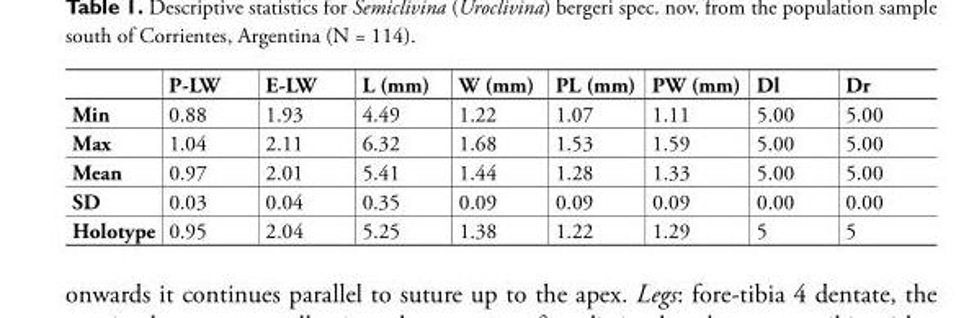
<table><thead><tr><td></td><td>P-LW</td><td>E-LW</td><td>L (mm)</td><td>W (mm)</td><td>PL (mm)</td><td>PW (mm)</td><td>Dl</td><td>Dr</td></tr></thead><tbody><tr><td>Min</td><td>0.88</td><td>1.93</td><td>4.49</td><td>1.22</td><td>1.07</td><td>1.11</td><td>5.00</td><td>5.00</td></tr><tr><td>Max</td><td>1.04</td><td>2.11</td><td>6.32</td><td>1.68</td><td>1.53</td><td>1.59</td><td>5.00</td><td>5.00</td></tr><tr><td>Mean</td><td>0.97</td><td>2.01</td><td>5.41</td><td>1.44</td><td>1.28</td><td>1.33</td><td>5.00</td><td>5.00</td></tr><tr><td>SD</td><td>0.03</td><td>0.04</td><td>0.35</td><td>0.09</td><td>0.09</td><td>0.09</td><td>0.00</td><td>0.00</td></tr><tr><td>Holotype</td><td>0.95</td><td>2.04</td><td>5.25</td><td>1.38</td><td>1.22</td><td>1.29</td><td>5</td><td>5</td></tr></tbody></table>